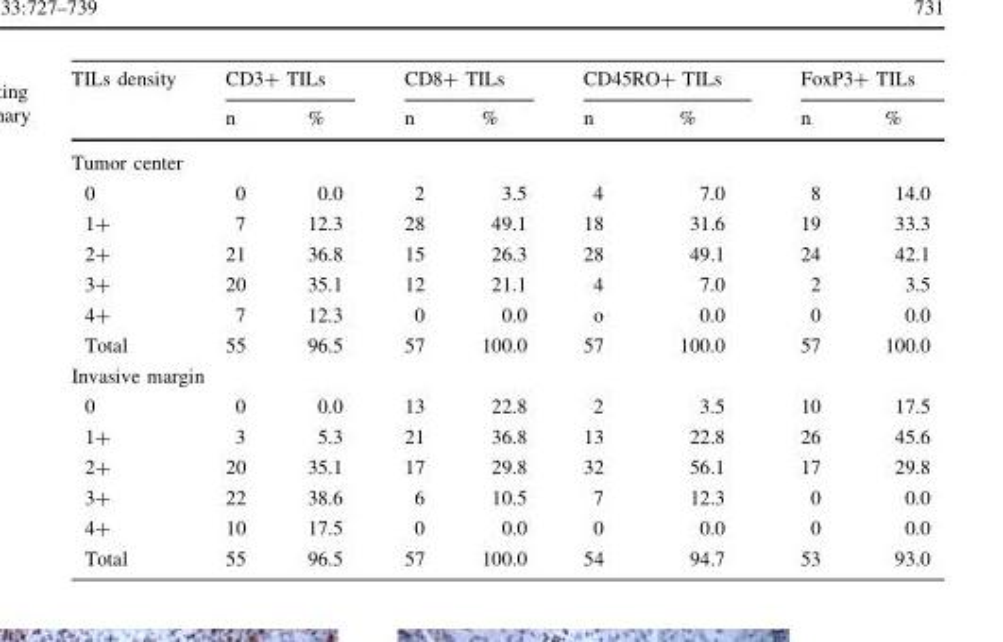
<table><thead><tr><td rowspan="2">TILs density</td><td colspan="2">CD3+ TILs</td><td colspan="2">CD8+ TILs</td><td colspan="2">CD45RO+ TILs</td><td colspan="2">FoxP3+ TILs</td></tr><tr><td>n</td><td>%</td><td>n</td><td>%</td><td>n</td><td>%</td><td>n</td><td>%</td></tr></thead><tbody><tr><td colspan="9">Tumor center</td></tr><tr><td>0</td><td>0</td><td>0.0</td><td>2</td><td>3.5</td><td>4</td><td>7.0</td><td>8</td><td>14.0</td></tr><tr><td>1+</td><td>7</td><td>12.3</td><td>28</td><td>49.1</td><td>18</td><td>31.6</td><td>19</td><td>33.3</td></tr><tr><td>2+</td><td>21</td><td>36.8</td><td>15</td><td>26.3</td><td>28</td><td>49.1</td><td>24</td><td>42.1</td></tr><tr><td>3+</td><td>20</td><td>35.1</td><td>12</td><td>21.1</td><td>4</td><td>7.0</td><td>2</td><td>3.5</td></tr><tr><td>4+</td><td>7</td><td>12.3</td><td>0</td><td>0.0</td><td>o</td><td>0.0</td><td>0</td><td>0.0</td></tr><tr><td>Total</td><td>55</td><td>96.5</td><td>57</td><td>100.0</td><td>57</td><td>100.0</td><td>57</td><td>100.0</td></tr><tr><td colspan="9">Invasive margin</td></tr><tr><td>0</td><td>0</td><td>0.0</td><td>13</td><td>22.8</td><td>2</td><td>3.5</td><td>10</td><td>17.5</td></tr><tr><td>1+</td><td>3</td><td>5.3</td><td>21</td><td>36.8</td><td>13</td><td>22.8</td><td>26</td><td>45.6</td></tr><tr><td>2+</td><td>20</td><td>35.1</td><td>17</td><td>29.8</td><td>32</td><td>56.1</td><td>17</td><td>29.8</td></tr><tr><td>3+</td><td>22</td><td>38.6</td><td>6</td><td>10.5</td><td>7</td><td>12.3</td><td>0</td><td>0.0</td></tr><tr><td>4+</td><td>10</td><td>17.5</td><td>0</td><td>0.0</td><td>0</td><td>0.0</td><td>0</td><td>0.0</td></tr><tr><td>Total</td><td>55</td><td>96.5</td><td>57</td><td>100.0</td><td>54</td><td>94.7</td><td>53</td><td>93.0</td></tr></tbody></table>